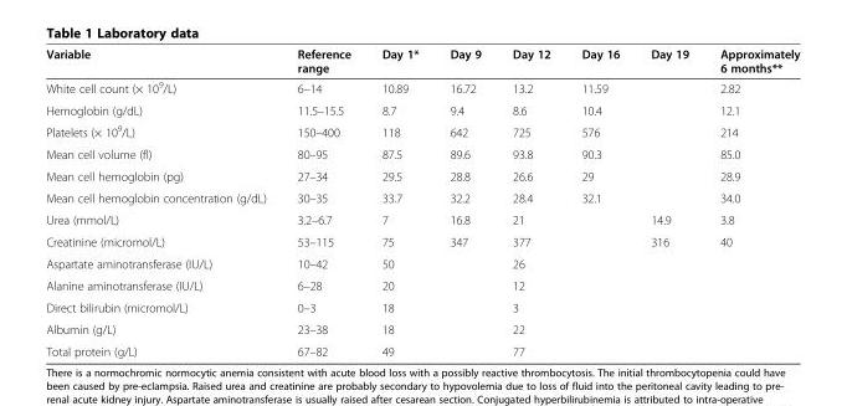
<table><thead><tr><td>Variable</td><td>Reference range</td><td>Day 1*</td><td>Day 9</td><td>Day 12</td><td>Day 16</td><td>Day 19</td><td>Approximately 6 months**</td></tr></thead><tbody><tr><td>White cell count (× 10<sup>9</sup>/L)</td><td>6–14</td><td>10.89</td><td>16.72</td><td>13.2</td><td>11.59</td><td></td><td>2.82</td></tr><tr><td>Hemoglobin (g/dL)</td><td>11.5–15.5</td><td>8.7</td><td>9.4</td><td>8.6</td><td>10.4</td><td></td><td>12.1</td></tr><tr><td>Platelets (× 10<sup>9</sup>/L)</td><td>150–400</td><td>118</td><td>642</td><td>725</td><td>576</td><td></td><td>214</td></tr><tr><td>Mean cell volume (fl)</td><td>80–95</td><td>87.5</td><td>89.6</td><td>93.8</td><td>90.3</td><td></td><td>85.0</td></tr><tr><td>Mean cell hemoglobin (pg)</td><td>27–34</td><td>29.5</td><td>28.8</td><td>26.6</td><td>29</td><td></td><td>28.9</td></tr><tr><td>Mean cell hemoglobin concentration (g/dL)</td><td>30–35</td><td>33.7</td><td>32.2</td><td>28.4</td><td>32.1</td><td></td><td>34.0</td></tr><tr><td>Urea (mmol/L)</td><td>3.2–6.7</td><td>7</td><td>16.8</td><td>21</td><td></td><td>14.9</td><td>3.8</td></tr><tr><td>Creatinine (micromol/L)</td><td>53–115</td><td>75</td><td>347</td><td>377</td><td></td><td>316</td><td>40</td></tr><tr><td>Aspartate aminotransferase (IU/L)</td><td>10–42</td><td>50</td><td></td><td>26</td><td></td><td></td><td></td></tr><tr><td>Alanine aminotransferase (IU/L)</td><td>6–28</td><td>20</td><td></td><td>12</td><td></td><td></td><td></td></tr><tr><td>Direct bilirubin (micromol/L)</td><td>0–3</td><td>18</td><td></td><td>3</td><td></td><td></td><td></td></tr><tr><td>Albumin (g/L)</td><td>23–38</td><td>18</td><td></td><td>22</td><td></td><td></td><td></td></tr><tr><td>Total protein (g/L)</td><td>67–82</td><td>49</td><td></td><td>77</td><td></td><td></td><td></td></tr></tbody></table>